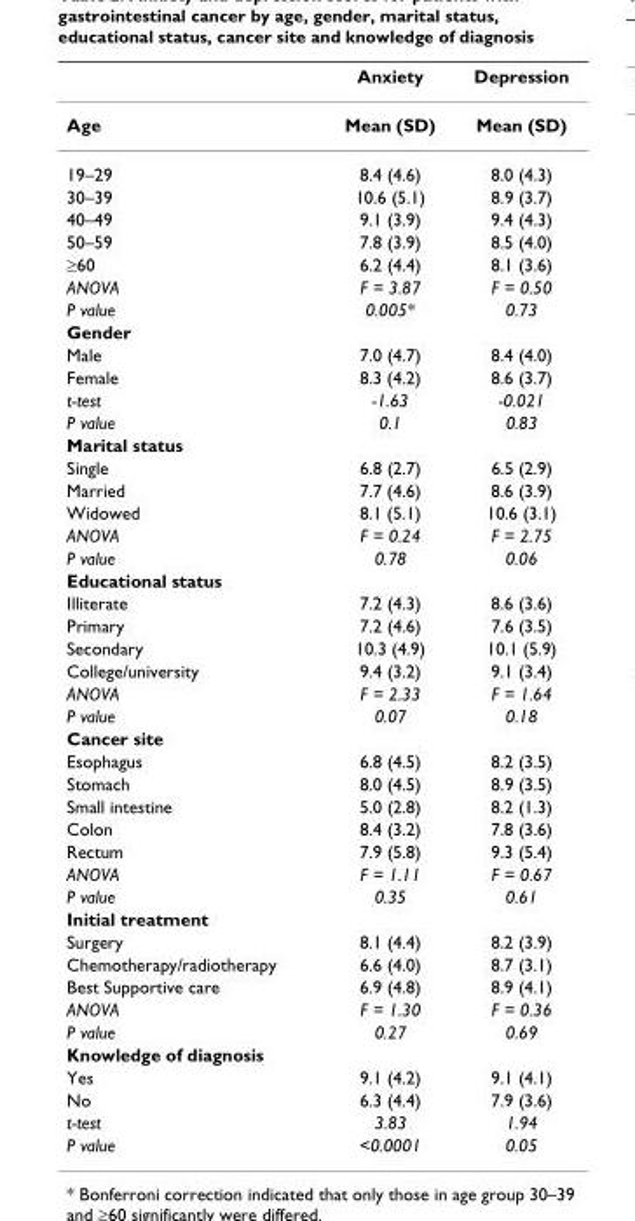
<table><thead><tr><td></td><td>Anxiety</td><td>Depression</td></tr></thead><tbody><tr><td>Age</td><td>Mean (SD)</td><td>Mean (SD)</td></tr><tr><td>19–29</td><td>8.4 (4.6)</td><td>8.0 (4.3)</td></tr><tr><td>30–39</td><td>10.6 (5.1)</td><td>8.9 (3.7)</td></tr><tr><td>40–49</td><td>9.1 (3.9)</td><td>9.4 (4.3)</td></tr><tr><td>50–59</td><td>7.8 (3.9)</td><td>8.5 (4.0)</td></tr><tr><td>≥60</td><td>6.2 (4.4)</td><td>8.1 (3.6)</td></tr><tr><td>ANOVA</td><td>F = 3.87</td><td>F = 0.50</td></tr><tr><td>P value</td><td>0.005*</td><td>0.73</td></tr><tr><td colspan="3">Gender</td></tr><tr><td>Male</td><td>7.0 (4.7)</td><td>8.4 (4.0)</td></tr><tr><td>Female</td><td>8.3 (4.2)</td><td>8.6 (3.7)</td></tr><tr><td>t-test</td><td>-1.63</td><td>-0.021</td></tr><tr><td>P value</td><td>0.1</td><td>0.83</td></tr><tr><td colspan="3">Marital status</td></tr><tr><td>Single</td><td>6.8 (2.7)</td><td>6.5 (2.9)</td></tr><tr><td>Married</td><td>7.7 (4.6)</td><td>8.6 (3.9)</td></tr><tr><td>Widowed</td><td>8.1 (5.1)</td><td>10.6 (3.1)</td></tr><tr><td>ANOVA</td><td>F = 0.24</td><td>F = 2.75</td></tr><tr><td>P value</td><td>0.78</td><td>0.06</td></tr><tr><td colspan="3">Educational status</td></tr><tr><td>Illiterate</td><td>7.2 (4.3)</td><td>8.6 (3.6)</td></tr><tr><td>Primary</td><td>7.2 (4.6)</td><td>7.6 (3.5)</td></tr><tr><td>Secondary</td><td>10.3 (4.9)</td><td>10.1 (5.9)</td></tr><tr><td>College/university</td><td>9.4 (3.2)</td><td>9.1 (3.4)</td></tr><tr><td>ANOVA</td><td>F = 2.33</td><td>F = 1.64</td></tr><tr><td>P value</td><td>0.07</td><td>0.18</td></tr><tr><td colspan="3">Cancer site</td></tr><tr><td>Esophagus</td><td>6.8 (4.5)</td><td>8.2 (3.5)</td></tr><tr><td>Stomach</td><td>8.0 (4.5)</td><td>8.9 (3.5)</td></tr><tr><td>Small intestine</td><td>5.0 (2.8)</td><td>8.2 (1.3)</td></tr><tr><td>Colon</td><td>8.4 (3.2)</td><td>7.8 (3.6)</td></tr><tr><td>Rectum</td><td>7.9 (5.8)</td><td>9.3 (5.4)</td></tr><tr><td>ANOVA</td><td>F = 1.11</td><td>F = 0.67</td></tr><tr><td>P value</td><td>0.35</td><td>0.61</td></tr><tr><td colspan="3">Initial treatment</td></tr><tr><td>Surgery</td><td>8.1 (4.4)</td><td>8.2 (3.9)</td></tr><tr><td>Chemotherapy/radiotherapy</td><td>6.6 (4.0)</td><td>8.7 (3.1)</td></tr><tr><td>Best Supportive care</td><td>6.9 (4.8)</td><td>8.9 (4.1)</td></tr><tr><td>ANOVA</td><td>F = 1.30</td><td>F = 0.36</td></tr><tr><td>P value</td><td>0.27</td><td>0.69</td></tr><tr><td colspan="3">Knowledge of diagnosis</td></tr><tr><td>Yes</td><td>9.1 (4.2)</td><td>9.1 (4.1)</td></tr><tr><td>No</td><td>6.3 (4.4)</td><td>7.9 (3.6)</td></tr><tr><td>t-test</td><td>3.83</td><td>1.94</td></tr><tr><td>P value</td><td>&lt;0.0001</td><td>0.05</td></tr></tbody></table>